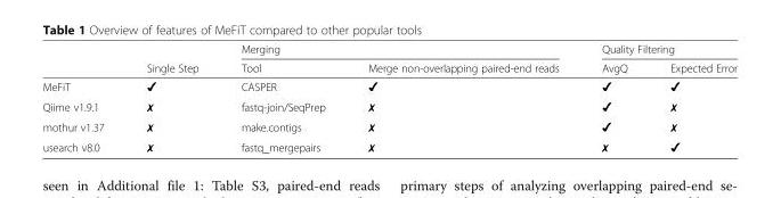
<table><thead><tr><td rowspan="2"></td><td rowspan="2">Single Step</td><td colspan="2">Merging</td><td colspan="2">Quality Filtering</td></tr><tr><td>Tool</td><td>Merge non-overlapping paired-end reads</td><td>AvgQ</td><td>Expected Error</td></tr></thead><tbody><tr><td>MeFiT</td><td>✔</td><td>CASPER</td><td>✔</td><td>✔</td><td>✔</td></tr><tr><td>Qiime v1.9.1</td><td>✗</td><td>fastq-join/SeqPrep</td><td>✗</td><td>✔</td><td>✗</td></tr><tr><td>mothur v1.37</td><td>✗</td><td>make.contigs</td><td>✗</td><td>✔</td><td>✗</td></tr><tr><td>usearch v8.0</td><td>✗</td><td>fastq_mergepairs</td><td>✗</td><td>✗</td><td>✔</td></tr></tbody></table>